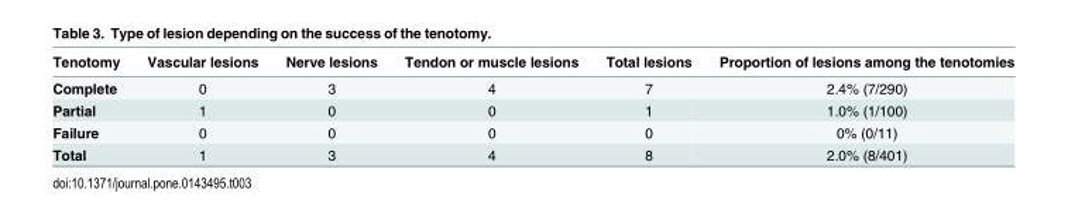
<table><thead><tr><td>Tenotomy</td><td>Vascular lesions</td><td>Nerve lesions</td><td>Tendon or muscle lesions</td><td>Total lesions</td><td>Proportion of lesions among the tenotomies</td></tr></thead><tbody><tr><td>Complete</td><td>0</td><td>3</td><td>4</td><td>7</td><td>2.4% (7/290)</td></tr><tr><td>Partial</td><td>1</td><td>0</td><td>0</td><td>1</td><td>1.0% (1/100)</td></tr><tr><td>Failure</td><td>0</td><td>0</td><td>0</td><td>0</td><td>0% (0/11)</td></tr><tr><td>Total</td><td>1</td><td>3</td><td>4</td><td>8</td><td>2.0% (8/401)</td></tr></tbody></table>